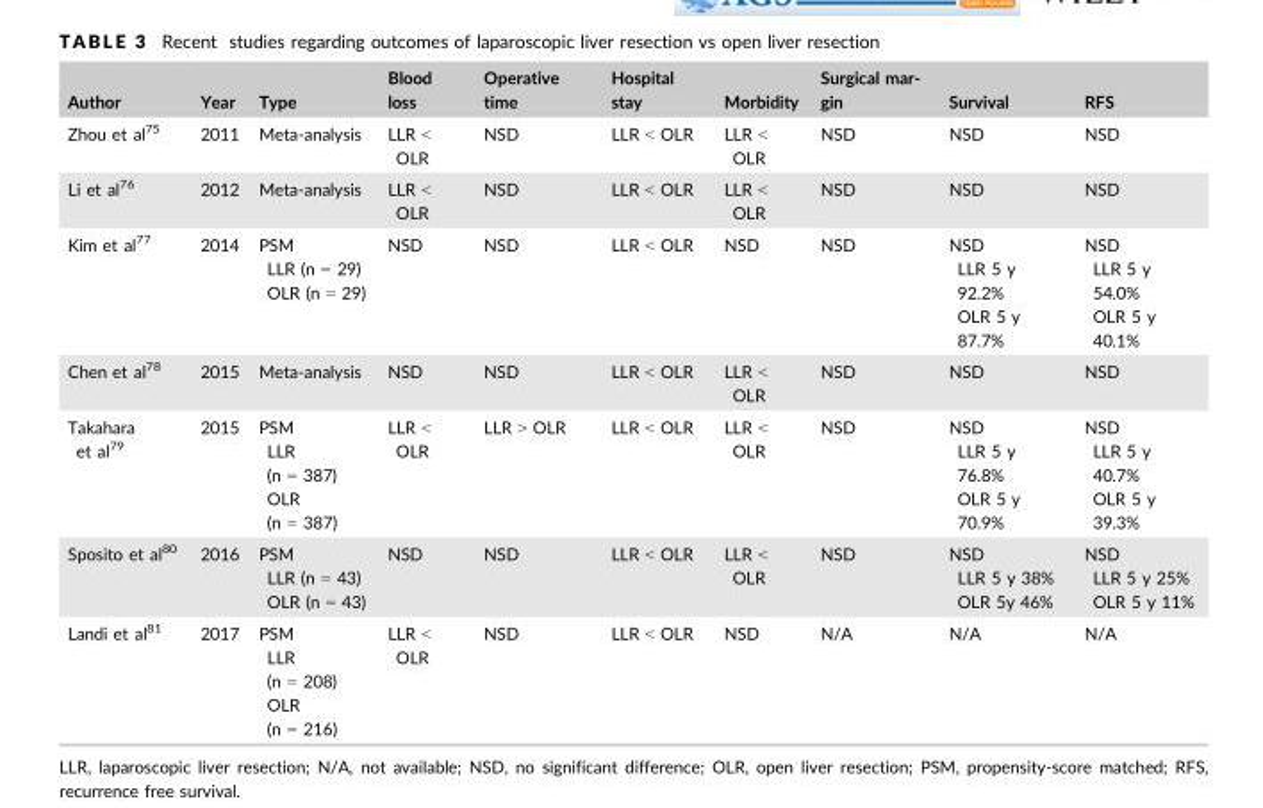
<table><thead><tr><td>Author</td><td>Year</td><td>Type</td><td>Blood loss</td><td>Operative time</td><td>Hospital stay</td><td>Morbidity</td><td>Surgical mar- gin</td><td>Survival</td><td>RFS</td></tr></thead><tbody><tr><td>Zhou et al<sup>75</sup></td><td>2011</td><td>Meta-analysis</td><td>LLR &lt; OLR</td><td>NSD</td><td>LLR &lt; OLR</td><td>LLR &lt; OLR</td><td>NSD</td><td>NSD</td><td>NSD</td></tr><tr><td>Li et al<sup>76</sup></td><td>2012</td><td>Meta-analysis</td><td>LLR &lt; OLR</td><td>NSD</td><td>LLR &lt; OLR</td><td>LLR &lt; OLR</td><td>NSD</td><td>NSD</td><td>NSD</td></tr><tr><td>Kim et al<sup>77</sup></td><td>2014</td><td>PSM LLR (n = 29) OLR (n = 29)</td><td>NSD</td><td>NSD</td><td>LLR &lt; OLR</td><td>NSD</td><td>NSD</td><td>NSD LLR 5 y 92.2% OLR 5 y 87.7%</td><td>NSD LLR 5 y 54.0% OLR 5 y 40.1%</td></tr><tr><td>Chen et al<sup>78</sup></td><td>2015</td><td>Meta-analysis</td><td>NSD</td><td>NSD</td><td>LLR &lt; OLR</td><td>LLR &lt; OLR</td><td>NSD</td><td>NSD</td><td>NSD</td></tr><tr><td>Takahara et al<sup>79</sup></td><td>2015</td><td>PSM LLR (n = 387) OLR (n = 387)</td><td>LLR &lt; OLR</td><td>LLR &gt; OLR</td><td>LLR &lt; OLR</td><td>LLR &lt; OLR</td><td>NSD</td><td>NSD LLR 5 y 76.8% OLR 5 y 70.9%</td><td>NSD LLR 5 y 40.7% OLR 5 y 39.3%</td></tr><tr><td>Sposito et al<sup>80</sup></td><td>2016</td><td>PSM LLR (n = 43) OLR (n = 43)</td><td>NSD</td><td>NSD</td><td>LLR &lt; OLR</td><td>LLR &lt; OLR</td><td>NSD</td><td>NSD LLR 5 y 38% OLR 5y 46%</td><td>NSD LLR 5 y 25% OLR 5 y 11%</td></tr><tr><td>Landi et al<sup>81</sup></td><td>2017</td><td>PSM LLR (n = 208) OLR (n = 216)</td><td>LLR &lt; OLR</td><td>NSD</td><td>LLR &lt; OLR</td><td>NSD</td><td>N/A</td><td>N/A</td><td>N/A</td></tr></tbody></table>